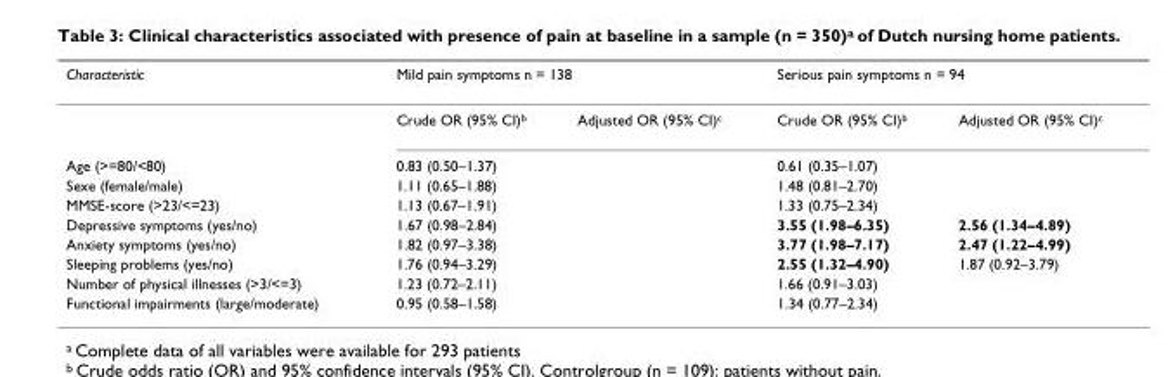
<table><thead><tr><td rowspan="2">Characteristic</td><td colspan="2">Mild pain symptoms n = 138</td><td colspan="2">Serious pain symptoms n = 94</td></tr><tr><td>Crude OR (95% CI)b</td><td>Adjusted OR (95% CI)c</td><td>Crude OR (95% CI)b</td><td>Adjusted OR (95% CI)c</td></tr></thead><tbody><tr><td>Age (&gt;=80/&lt;80)</td><td>0.83 (0.50–1.37)</td><td></td><td>0.61 (0.35–1.07)</td><td></td></tr><tr><td>Sexe (female/male)</td><td>1.11 (0.65–1.88)</td><td></td><td>1.48 (0.81–2.70)</td><td></td></tr><tr><td>MMSE-score (&gt;23/&lt;=23)</td><td>1.13 (0.67–1.91)</td><td></td><td>1.33 (0.75–2.34)</td><td></td></tr><tr><td>Depressive symptoms (yes/no)</td><td>1.67 (0.98–2.84)</td><td></td><td>3.55 (1.98–6.35)</td><td>2.56 (1.34–4.89)</td></tr><tr><td>Anxiety symptoms (yes/no)</td><td>1.82 (0.97–3.38)</td><td></td><td>3.77 (1.98–7.17)</td><td>2.47 (1.22–4.99)</td></tr><tr><td>Sleeping problems (yes/no)</td><td>1.76 (0.94–3.29)</td><td></td><td>2.55 (1.32–4.90)</td><td>1.87 (0.92–3.79)</td></tr><tr><td>Number of physical illnesses (&gt;3/&lt;=3)</td><td>1.23 (0.72–2.11)</td><td></td><td>1.66 (0.91–3.03)</td><td></td></tr><tr><td>Functional impairments (large/moderate)</td><td>0.95 (0.58–1.58)</td><td></td><td>1.34 (0.77–2.34)</td><td></td></tr></tbody></table>